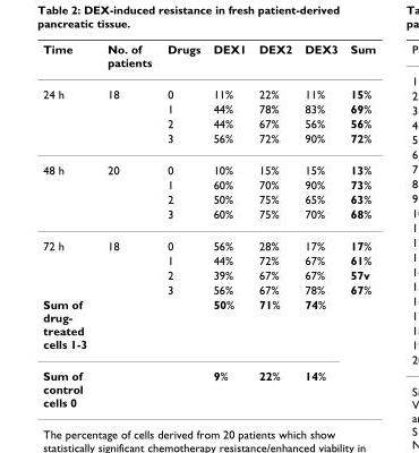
<table><thead><tr><td>Time</td><td>No. of patients</td><td>Drugs</td><td>DEX1</td><td>DEX2</td><td>DEX3</td><td>Sum</td></tr></thead><tbody><tr><td rowspan="4">24 h</td><td>18</td><td>0</td><td>11%</td><td>22%</td><td>11%</td><td>15%</td></tr><tr><td></td><td>1</td><td>44%</td><td>78%</td><td>83%</td><td>69%</td></tr><tr><td></td><td>2</td><td>44%</td><td>67%</td><td>56%</td><td>56%</td></tr><tr><td></td><td>3</td><td>56%</td><td>72%</td><td>90%</td><td>72%</td></tr><tr><td rowspan="4">48 h</td><td>20</td><td>0</td><td>10%</td><td>15%</td><td>15%</td><td>13%</td></tr><tr><td></td><td>1</td><td>60%</td><td>70%</td><td>90%</td><td>73%</td></tr><tr><td></td><td>2</td><td>50%</td><td>75%</td><td>65%</td><td>63%</td></tr><tr><td></td><td>3</td><td>60%</td><td>75%</td><td>70%</td><td>68%</td></tr><tr><td rowspan="4">72 h</td><td>18</td><td>0</td><td>56%</td><td>28%</td><td>17%</td><td>17%</td></tr><tr><td></td><td>1</td><td>44%</td><td>72%</td><td>67%</td><td>61%</td></tr><tr><td></td><td>2</td><td>39%</td><td>67%</td><td>67%</td><td>57v</td></tr><tr><td></td><td>3</td><td>56%</td><td>67%</td><td>78%</td><td>67%</td></tr><tr><td>Sum of drug- treated cells 1-3</td><td></td><td></td><td>50%</td><td>71%</td><td>74%</td><td></td></tr><tr><td>Sum of control cells 0</td><td></td><td></td><td>9%</td><td>22%</td><td>14%</td><td></td></tr></tbody></table>